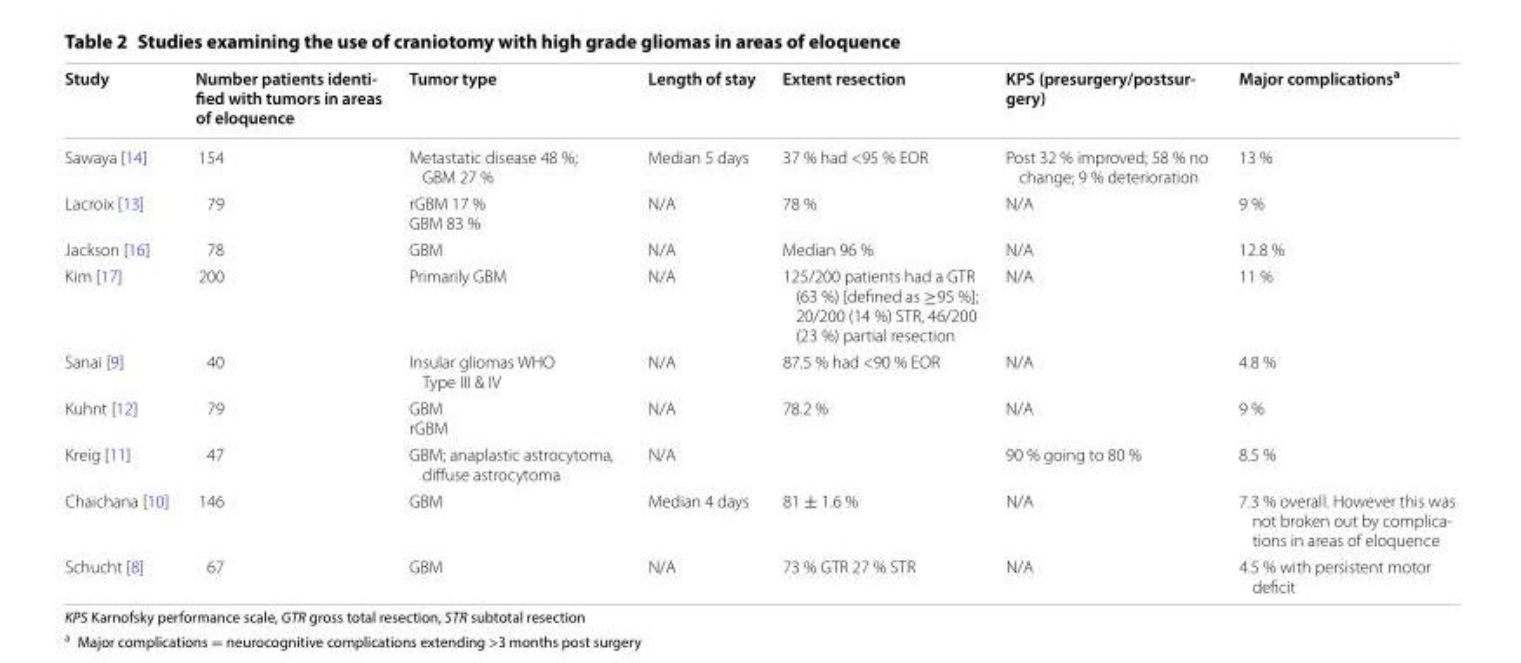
<table><thead><tr><td>Study</td><td>Number patients identi- fied with tumors in areas of eloquence</td><td>Tumor type</td><td>Length of stay</td><td>Extent resection</td><td>KPS (presurgery/postsur- gery)</td><td>Major complications<sup>a</sup></td></tr></thead><tbody><tr><td>Sawaya [14]</td><td>154</td><td>Metastatic disease 48 %; GBM 27 %</td><td>Median 5 days</td><td>37 % had &lt;95 % EOR</td><td>Post 32 % improved; 58 % no change; 9 % deterioration</td><td>13 %</td></tr><tr><td>Lacroix [13]</td><td>79</td><td>rGBM 17 % GBM 83 %</td><td>N/A</td><td>78 %</td><td>N/A</td><td>9 %</td></tr><tr><td>Jackson [16]</td><td>78</td><td>GBM</td><td>N/A</td><td>Median 96 %</td><td>N/A</td><td>12.8 %</td></tr><tr><td>Kim [17]</td><td>200</td><td>Primarily GBM</td><td>N/A</td><td>125/200 patients had a GTR (63 %) [defined as ≥95 %]; 20/200 (14 %) STR, 46/200 (23 %) partial resection</td><td>N/A</td><td>11 %</td></tr><tr><td>Sanai [9]</td><td>40</td><td>Insular gliomas WHO Type III &amp; IV</td><td>N/A</td><td>87.5 % had &lt;90 % EOR</td><td>N/A</td><td>4.8 %</td></tr><tr><td>Kuhnt [12]</td><td>79</td><td>GBM rGBM</td><td>N/A</td><td>78.2 %</td><td>N/A</td><td>9 %</td></tr><tr><td>Kreig [11]</td><td>47</td><td>GBM; anaplastic astrocytoma, diffuse astrocytoma</td><td>N/A</td><td></td><td>90 % going to 80 %</td><td>8.5 %</td></tr><tr><td>Chaichana [10]</td><td>146</td><td>GBM</td><td>Median 4 days</td><td>81 ± 1.6 %</td><td>N/A</td><td>7.3 % overall. However this was not broken out by complica- tions in areas of eloquence</td></tr><tr><td>Schucht [8]</td><td>67</td><td>GBM</td><td>N/A</td><td>73 % GTR 27 % STR</td><td>N/A</td><td>4.5 % with persistent motor deficit</td></tr></tbody></table>